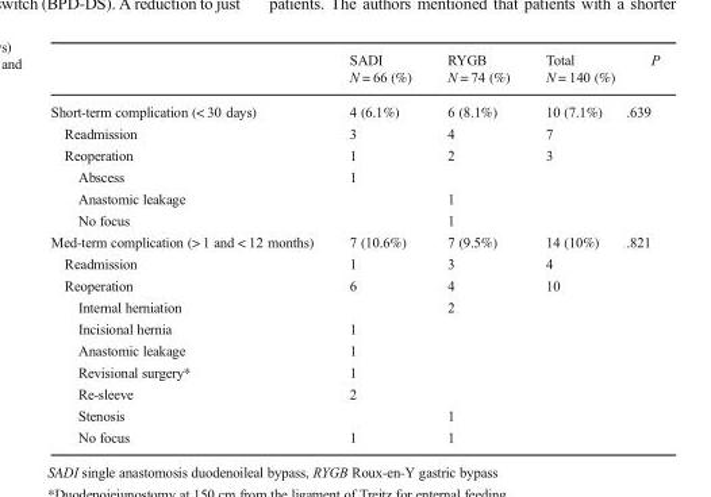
<table><thead><tr><td rowspan="2"></td><td rowspan="2">SADI N = 66 (%)</td><td rowspan="2">RYGB N = 74 (%)</td><td rowspan="2">Total N = 140 (%)</td><td rowspan="2">P</td></tr><tr></tr></thead><tbody><tr><td>Short-term complication (&lt; 30 days)</td><td>4 (6.1%)</td><td>6 (8.1%)</td><td>10 (7.1%)</td><td>.639</td></tr><tr><td>Readmission</td><td>3</td><td>4</td><td>7</td><td></td></tr><tr><td>Reoperation</td><td>1</td><td>2</td><td>3</td><td></td></tr><tr><td>Abscess</td><td>1</td><td></td><td></td><td></td></tr><tr><td>Anastomic leakage</td><td></td><td>1</td><td></td><td></td></tr><tr><td>No focus</td><td></td><td>1</td><td></td><td></td></tr><tr><td>Med-term complication (&gt; 1 and &lt; 12 months)</td><td>7 (10.6%)</td><td>7 (9.5%)</td><td>14 (10%)</td><td>.821</td></tr><tr><td>Readmission</td><td>1</td><td>3</td><td>4</td><td></td></tr><tr><td>Reoperation</td><td>6</td><td>4</td><td>10</td><td></td></tr><tr><td>Internal herniation</td><td></td><td>2</td><td></td><td></td></tr><tr><td>Incisional hernia</td><td>1</td><td></td><td></td><td></td></tr><tr><td>Anastomic leakage</td><td>1</td><td></td><td></td><td></td></tr><tr><td>Revisional surgery*</td><td>1</td><td></td><td></td><td></td></tr><tr><td>Re-sleeve</td><td>2</td><td></td><td></td><td></td></tr><tr><td>Stenosis</td><td></td><td>1</td><td></td><td></td></tr><tr><td>No focus</td><td>1</td><td>1</td><td></td><td></td></tr></tbody></table>